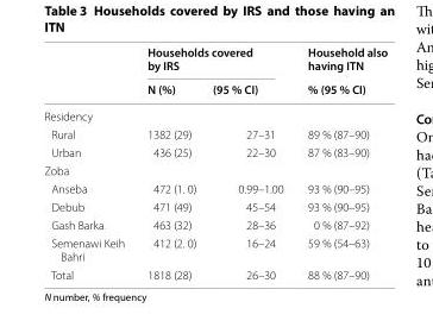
<table><thead><tr><td rowspan="2"></td><td colspan="2">Households covered by IRS</td><td rowspan="2">Household also having ITN % (95 % CI)</td></tr><tr><td>N (%)</td><td>(95 % CI)</td></tr></thead><tbody><tr><td colspan="4">Residency</td></tr><tr><td>Rural</td><td>1382 (29)</td><td>27–31</td><td>89 % (87–90)</td></tr><tr><td>Urban</td><td>436 (25)</td><td>22–30</td><td>87 % (83–90)</td></tr><tr><td colspan="4">Zoba</td></tr><tr><td>Anseba</td><td>472 (1. 0)</td><td>0.99–1.00</td><td>93 % (90–95)</td></tr><tr><td>Debub</td><td>471 (49)</td><td>45–54</td><td>93 % (90–95)</td></tr><tr><td>Gash Barka</td><td>463 (32)</td><td>28–36</td><td>0 % (87–92)</td></tr><tr><td>Semenawi Keih Bahri</td><td>412 (2. 0)</td><td>16–24</td><td>59 % (54–63)</td></tr><tr><td>Total</td><td>1818 (28)</td><td>26–30</td><td>88 % (87–90)</td></tr></tbody></table>